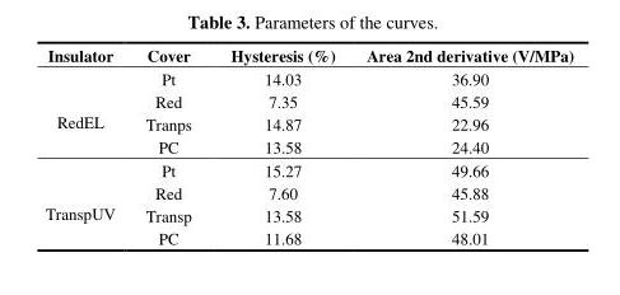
<table><thead><tr><td>Insulator</td><td>Cover</td><td>Hysteresis (%)</td><td>Area 2nd derivative (V/MPa)</td></tr></thead><tbody><tr><td rowspan="4">RedEL</td><td>Pt</td><td>14.03</td><td>36.90</td></tr><tr><td>Red</td><td>7.35</td><td>45.59</td></tr><tr><td>Tranps</td><td>14.87</td><td>22.96</td></tr><tr><td>PC</td><td>13.58</td><td>24.40</td></tr><tr><td rowspan="4">TranspUV</td><td>Pt</td><td>15.27</td><td>49.66</td></tr><tr><td>Red</td><td>7.60</td><td>45.88</td></tr><tr><td>Transp</td><td>13.58</td><td>51.59</td></tr><tr><td>PC</td><td>11.68</td><td>48.01</td></tr></tbody></table>